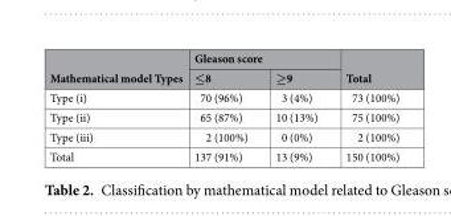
<table><thead><tr><td rowspan="2">Mathematical model Types</td><td colspan="2">Gleason score</td><td rowspan="2">Total</td></tr><tr><td>≤8</td><td>≥9</td></tr></thead><tbody><tr><td>Type (i)</td><td>70 (96%)</td><td>3 (4%)</td><td>73 (100%)</td></tr><tr><td>Type (ii)</td><td>65 (87%)</td><td>10 (13%)</td><td>75 (100%)</td></tr><tr><td>Type (iii)</td><td>2 (100%)</td><td>0 (0%)</td><td>2 (100%)</td></tr><tr><td>Total</td><td>137 (91%)</td><td>13 (9%)</td><td>150 (100%)</td></tr></tbody></table>